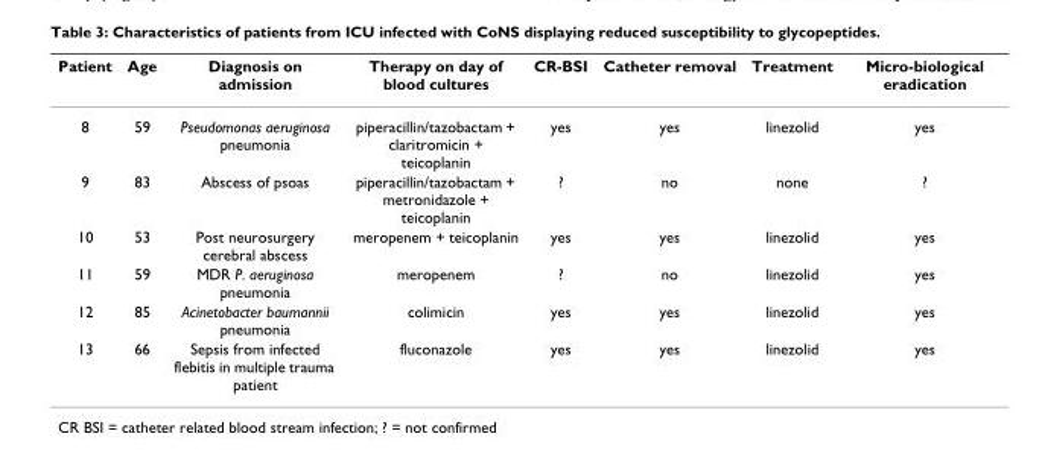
<table><thead><tr><td>Patient</td><td>Age</td><td>Diagnosis on admission</td><td>Therapy on day of blood cultures</td><td>CR-BSI</td><td>Catheter removal</td><td>Treatment</td><td>Micro-biological eradication</td></tr></thead><tbody><tr><td>8</td><td>59</td><td>Pseudomonas aeruginosa pneumonia</td><td>piperacillin/tazobactam + claritromicin + teicoplanin</td><td>yes</td><td>yes</td><td>linezolid</td><td>yes</td></tr><tr><td>9</td><td>83</td><td>Abscess of psoas</td><td>piperacillin/tazobactam + metronidazole + teicoplanin</td><td>?</td><td>no</td><td>none</td><td>?</td></tr><tr><td>10</td><td>53</td><td>Post neurosurgery cerebral abscess</td><td>meropenem + teicoplanin</td><td>yes</td><td>yes</td><td>linezolid</td><td>yes</td></tr><tr><td>11</td><td>59</td><td>MDR P. aeruginosa pneumonia</td><td>meropenem</td><td>?</td><td>no</td><td>linezolid</td><td>yes</td></tr><tr><td>12</td><td>85</td><td>Acinetobacter baumannii pneumonia</td><td>colimicin</td><td>yes</td><td>yes</td><td>linezolid</td><td>yes</td></tr><tr><td>13</td><td>66</td><td>Sepsis from infected flebitis in multiple trauma patient</td><td>fluconazole</td><td>yes</td><td>yes</td><td>linezolid</td><td>yes</td></tr></tbody></table>